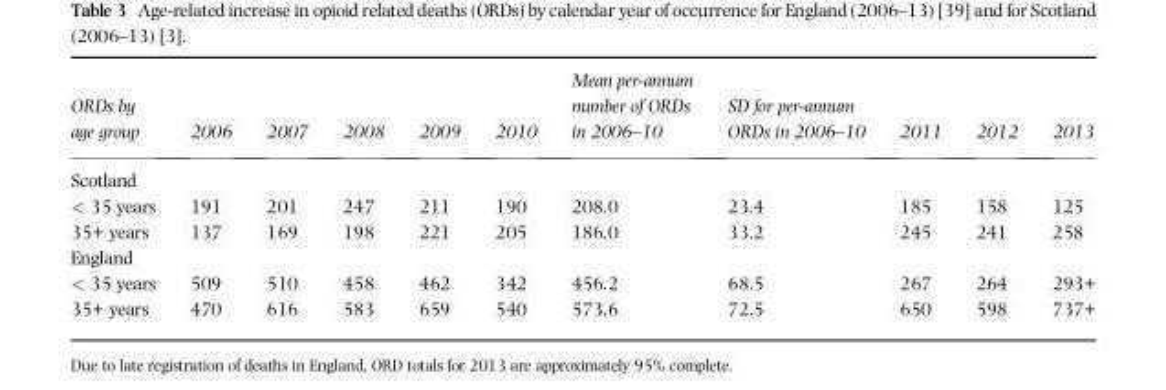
<table><thead><tr><td>ORDs by age group</td><td>2006</td><td>2007</td><td>2008</td><td>2009</td><td>2010</td><td>Mean per-annum number of ORDs in 2006–10</td><td>SD for per-annum ORDs in 2006–10</td><td>2011</td><td>2012</td><td>2013</td></tr></thead><tbody><tr><td colspan="11">Scotland</td></tr><tr><td>&lt; 35 years</td><td>191</td><td>201</td><td>247</td><td>211</td><td>190</td><td>208.0</td><td>23.4</td><td>185</td><td>158</td><td>125</td></tr><tr><td>35+ years</td><td>137</td><td>169</td><td>198</td><td>221</td><td>205</td><td>186.0</td><td>33.2</td><td>245</td><td>241</td><td>258</td></tr><tr><td colspan="11">England</td></tr><tr><td>&lt; 35 years</td><td>509</td><td>510</td><td>458</td><td>462</td><td>342</td><td>456.2</td><td>68.5</td><td>267</td><td>264</td><td>293+</td></tr><tr><td>35+ years</td><td>470</td><td>616</td><td>583</td><td>659</td><td>540</td><td>573.6</td><td>72.5</td><td>650</td><td>598</td><td>737+</td></tr></tbody></table>